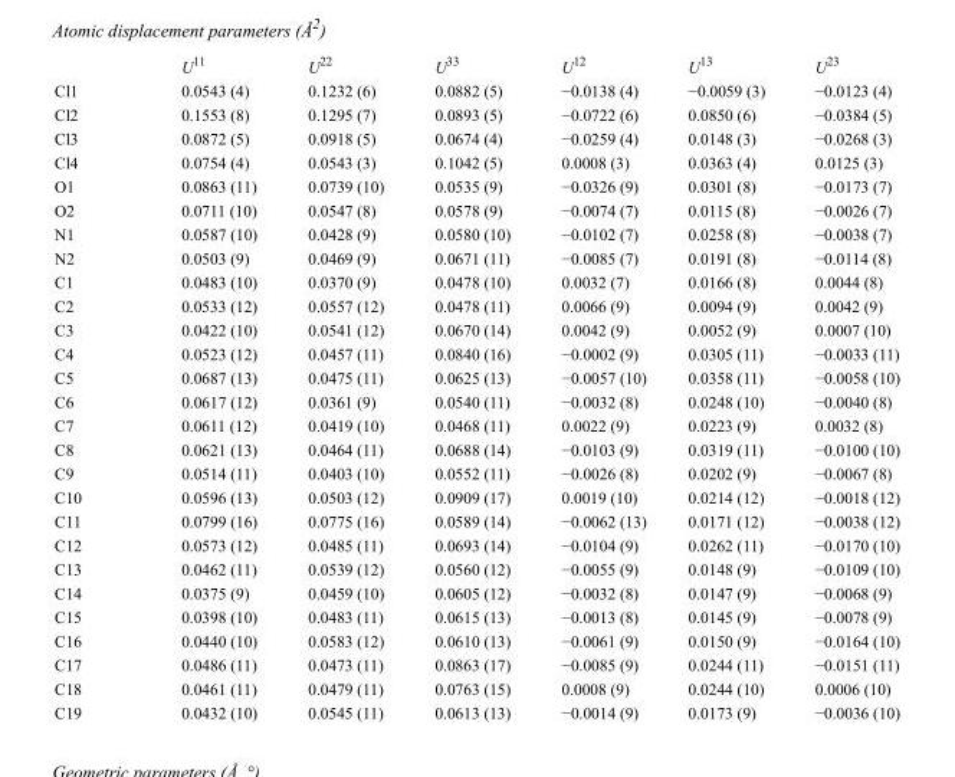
<table><thead><tr><td></td><td>U<sup>11</sup></td><td>U<sup>22</sup></td><td>U<sup>33</sup></td><td>U<sup>12</sup></td><td>U<sup>13</sup></td><td>U<sup>23</sup></td></tr></thead><tbody><tr><td>Cl1</td><td>0.0543 (4)</td><td>0.1232 (6)</td><td>0.0882 (5)</td><td>−0.0138 (4)</td><td>−0.0059 (3)</td><td>−0.0123 (4)</td></tr><tr><td>Cl2</td><td>0.1553 (8)</td><td>0.1295 (7)</td><td>0.0893 (5)</td><td>−0.0722 (6)</td><td>0.0850 (6)</td><td>−0.0384 (5)</td></tr><tr><td>Cl3</td><td>0.0872 (5)</td><td>0.0918 (5)</td><td>0.0674 (4)</td><td>−0.0259 (4)</td><td>0.0148 (3)</td><td>−0.0268 (3)</td></tr><tr><td>Cl4</td><td>0.0754 (4)</td><td>0.0543 (3)</td><td>0.1042 (5)</td><td>0.0008 (3)</td><td>0.0363 (4)</td><td>0.0125 (3)</td></tr><tr><td>O1</td><td>0.0863 (11)</td><td>0.0739 (10)</td><td>0.0535 (9)</td><td>−0.0326 (9)</td><td>0.0301 (8)</td><td>−0.0173 (7)</td></tr><tr><td>O2</td><td>0.0711 (10)</td><td>0.0547 (8)</td><td>0.0578 (9)</td><td>−0.0074 (7)</td><td>0.0115 (8)</td><td>−0.0026 (7)</td></tr><tr><td>N1</td><td>0.0587 (10)</td><td>0.0428 (9)</td><td>0.0580 (10)</td><td>−0.0102 (7)</td><td>0.0258 (8)</td><td>−0.0038 (7)</td></tr><tr><td>N2</td><td>0.0503 (9)</td><td>0.0469 (9)</td><td>0.0671 (11)</td><td>−0.0085 (7)</td><td>0.0191 (8)</td><td>−0.0114 (8)</td></tr><tr><td>C1</td><td>0.0483 (10)</td><td>0.0370 (9)</td><td>0.0478 (10)</td><td>0.0032 (7)</td><td>0.0166 (8)</td><td>0.0044 (8)</td></tr><tr><td>C2</td><td>0.0533 (12)</td><td>0.0557 (12)</td><td>0.0478 (11)</td><td>0.0066 (9)</td><td>0.0094 (9)</td><td>0.0042 (9)</td></tr><tr><td>C3</td><td>0.0422 (10)</td><td>0.0541 (12)</td><td>0.0670 (14)</td><td>0.0042 (9)</td><td>0.0052 (9)</td><td>0.0007 (10)</td></tr><tr><td>C4</td><td>0.0523 (12)</td><td>0.0457 (11)</td><td>0.0840 (16)</td><td>−0.0002 (9)</td><td>0.0305 (11)</td><td>−0.0033 (11)</td></tr><tr><td>C5</td><td>0.0687 (13)</td><td>0.0475 (11)</td><td>0.0625 (13)</td><td>−0.0057 (10)</td><td>0.0358 (11)</td><td>−0.0058 (10)</td></tr><tr><td>C6</td><td>0.0617 (12)</td><td>0.0361 (9)</td><td>0.0540 (11)</td><td>−0.0032 (8)</td><td>0.0248 (10)</td><td>−0.0040 (8)</td></tr><tr><td>C7</td><td>0.0611 (12)</td><td>0.0419 (10)</td><td>0.0468 (11)</td><td>0.0022 (9)</td><td>0.0223 (9)</td><td>0.0032 (8)</td></tr><tr><td>C8</td><td>0.0621 (13)</td><td>0.0464 (11)</td><td>0.0688 (14)</td><td>−0.0103 (9)</td><td>0.0319 (11)</td><td>−0.0100 (10)</td></tr><tr><td>C9</td><td>0.0514 (11)</td><td>0.0403 (10)</td><td>0.0552 (11)</td><td>−0.0026 (8)</td><td>0.0202 (9)</td><td>−0.0067 (8)</td></tr><tr><td>C10</td><td>0.0596 (13)</td><td>0.0503 (12)</td><td>0.0909 (17)</td><td>0.0019 (10)</td><td>0.0214 (12)</td><td>−0.0018 (12)</td></tr><tr><td>C11</td><td>0.0799 (16)</td><td>0.0775 (16)</td><td>0.0589 (14)</td><td>−0.0062 (13)</td><td>0.0171 (12)</td><td>−0.0038 (12)</td></tr><tr><td>C12</td><td>0.0573 (12)</td><td>0.0485 (11)</td><td>0.0693 (14)</td><td>−0.0104 (9)</td><td>0.0262 (11)</td><td>−0.0170 (10)</td></tr><tr><td>C13</td><td>0.0462 (11)</td><td>0.0539 (12)</td><td>0.0560 (12)</td><td>−0.0055 (9)</td><td>0.0148 (9)</td><td>−0.0109 (10)</td></tr><tr><td>C14</td><td>0.0375 (9)</td><td>0.0459 (10)</td><td>0.0605 (12)</td><td>−0.0032 (8)</td><td>0.0147 (9)</td><td>−0.0068 (9)</td></tr><tr><td>C15</td><td>0.0398 (10)</td><td>0.0483 (11)</td><td>0.0615 (13)</td><td>−0.0013 (8)</td><td>0.0145 (9)</td><td>−0.0078 (9)</td></tr><tr><td>C16</td><td>0.0440 (10)</td><td>0.0583 (12)</td><td>0.0610 (13)</td><td>−0.0061 (9)</td><td>0.0150 (9)</td><td>−0.0164 (10)</td></tr><tr><td>C17</td><td>0.0486 (11)</td><td>0.0473 (11)</td><td>0.0863 (17)</td><td>−0.0085 (9)</td><td>0.0244 (11)</td><td>−0.0151 (11)</td></tr><tr><td>C18</td><td>0.0461 (11)</td><td>0.0479 (11)</td><td>0.0763 (15)</td><td>0.0008 (9)</td><td>0.0244 (10)</td><td>0.0006 (10)</td></tr><tr><td>C19</td><td>0.0432 (10)</td><td>0.0545 (11)</td><td>0.0613 (13)</td><td>−0.0014 (9)</td><td>0.0173 (9)</td><td>−0.0036 (10)</td></tr></tbody></table>